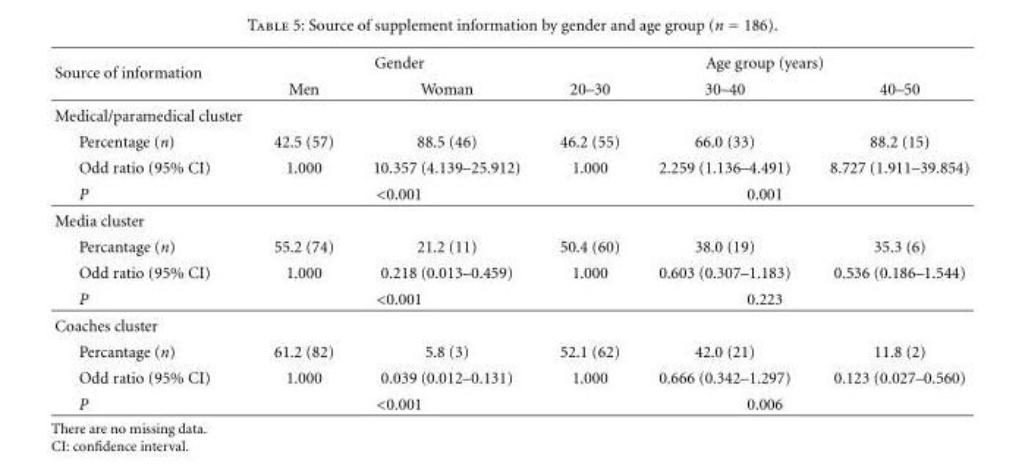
<table><thead><tr><td rowspan="2">Source of information</td><td colspan="2">Gender</td><td colspan="3">Age group (years)</td></tr><tr><td>Men</td><td>Woman</td><td>20–30</td><td>30–40</td><td>40–50</td></tr></thead><tbody><tr><td colspan="6">Medical/paramedical cluster</td></tr><tr><td>Percentage (n)</td><td>42.5 (57)</td><td>88.5 (46)</td><td>46.2 (55)</td><td>66.0 (33)</td><td>88.2 (15)</td></tr><tr><td>Odd ratio (95% CI)</td><td>1.000</td><td>10.357 (4.139–25.912)</td><td>1.000</td><td>2.259 (1.136–4.491)</td><td>8.727 (1.911–39.854)</td></tr><tr><td>P</td><td colspan="2">&lt;0.001</td><td colspan="3">0.001</td></tr><tr><td colspan="6">Media cluster</td></tr><tr><td>Percantage (n)</td><td>55.2 (74)</td><td>21.2 (11)</td><td>50.4 (60)</td><td>38.0 (19)</td><td>35.3 (6)</td></tr><tr><td>Odd ratio (95% CI)</td><td>1.000</td><td>0.218 (0.013–0.459)</td><td>1.000</td><td>0.603 (0.307–1.183)</td><td>0.536 (0.186–1.544)</td></tr><tr><td>P</td><td colspan="2">&lt;0.001</td><td colspan="3">0.223</td></tr><tr><td colspan="6">Coaches cluster</td></tr><tr><td>Percantage (n)</td><td>61.2 (82)</td><td>5.8 (3)</td><td>52.1 (62)</td><td>42.0 (21)</td><td>11.8 (2)</td></tr><tr><td>Odd ratio (95% CI)</td><td>1.000</td><td>0.039 (0.012–0.131)</td><td>1.000</td><td>0.666 (0.342–1.297)</td><td>0.123 (0.027–0.560)</td></tr><tr><td>P</td><td colspan="2">&lt;0.001</td><td colspan="3">0.006</td></tr></tbody></table>